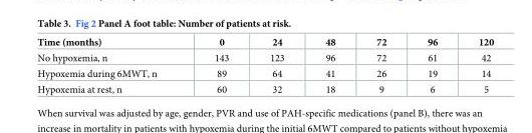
<table><thead><tr><td>Time (months)</td><td>0</td><td>24</td><td>48</td><td>72</td><td>96</td><td>120</td></tr></thead><tbody><tr><td>No hypoxemia, n</td><td>143</td><td>123</td><td>96</td><td>72</td><td>61</td><td>42</td></tr><tr><td>Hypoxemia during 6MWT, n</td><td>89</td><td>64</td><td>41</td><td>26</td><td>19</td><td>14</td></tr><tr><td>Hypoxemia at rest, n</td><td>60</td><td>32</td><td>18</td><td>9</td><td>6</td><td>5</td></tr></tbody></table>